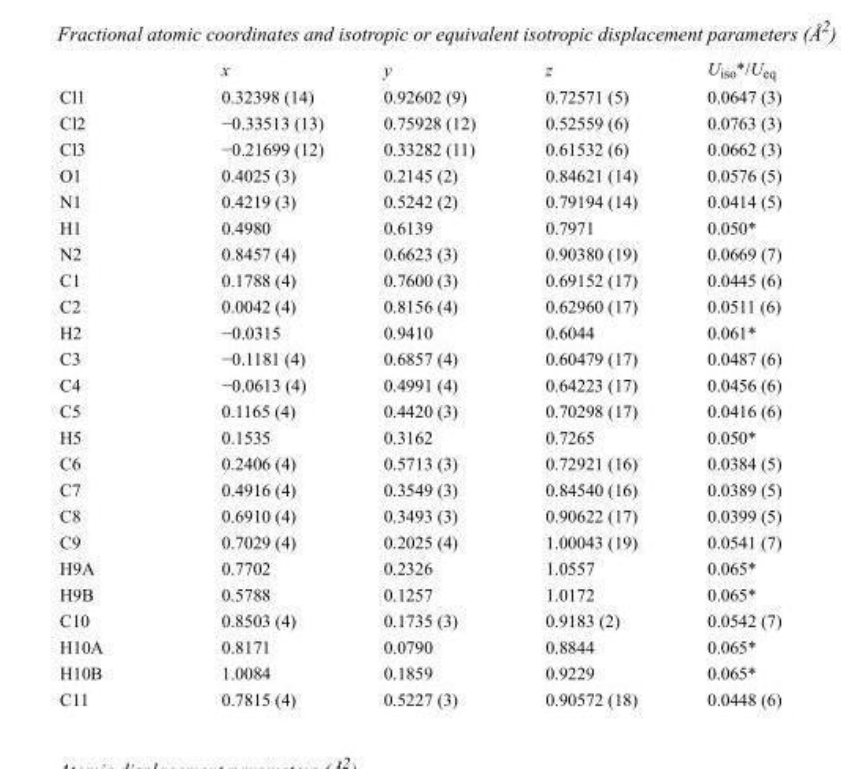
<table><thead><tr><td></td><td>x</td><td>y</td><td>z</td><td>U<sub>iso</sub>*/U<sub>eq</sub></td></tr></thead><tbody><tr><td>Cl1</td><td>0.32398 (14)</td><td>0.92602 (9)</td><td>0.72571 (5)</td><td>0.0647 (3)</td></tr><tr><td>Cl2</td><td>−0.33513 (13)</td><td>0.75928 (12)</td><td>0.52559 (6)</td><td>0.0763 (3)</td></tr><tr><td>Cl3</td><td>−0.21699 (12)</td><td>0.33282 (11)</td><td>0.61532 (6)</td><td>0.0662 (3)</td></tr><tr><td>O1</td><td>0.4025 (3)</td><td>0.2145 (2)</td><td>0.84621 (14)</td><td>0.0576 (5)</td></tr><tr><td>N1</td><td>0.4219 (3)</td><td>0.5242 (2)</td><td>0.79194 (14)</td><td>0.0414 (5)</td></tr><tr><td>H1</td><td>0.4980</td><td>0.6139</td><td>0.7971</td><td>0.050*</td></tr><tr><td>N2</td><td>0.8457 (4)</td><td>0.6623 (3)</td><td>0.90380 (19)</td><td>0.0669 (7)</td></tr><tr><td>C1</td><td>0.1788 (4)</td><td>0.7600 (3)</td><td>0.69152 (17)</td><td>0.0445 (6)</td></tr><tr><td>C2</td><td>0.0042 (4)</td><td>0.8156 (4)</td><td>0.62960 (17)</td><td>0.0511 (6)</td></tr><tr><td>H2</td><td>−0.0315</td><td>0.9410</td><td>0.6044</td><td>0.061*</td></tr><tr><td>C3</td><td>−0.1181 (4)</td><td>0.6857 (4)</td><td>0.60479 (17)</td><td>0.0487 (6)</td></tr><tr><td>C4</td><td>−0.0613 (4)</td><td>0.4991 (4)</td><td>0.64223 (17)</td><td>0.0456 (6)</td></tr><tr><td>C5</td><td>0.1165 (4)</td><td>0.4420 (3)</td><td>0.70298 (17)</td><td>0.0416 (6)</td></tr><tr><td>H5</td><td>0.1535</td><td>0.3162</td><td>0.7265</td><td>0.050*</td></tr><tr><td>C6</td><td>0.2406 (4)</td><td>0.5713 (3)</td><td>0.72921 (16)</td><td>0.0384 (5)</td></tr><tr><td>C7</td><td>0.4916 (4)</td><td>0.3549 (3)</td><td>0.84540 (16)</td><td>0.0389 (5)</td></tr><tr><td>C8</td><td>0.6910 (4)</td><td>0.3493 (3)</td><td>0.90622 (17)</td><td>0.0399 (5)</td></tr><tr><td>C9</td><td>0.7029 (4)</td><td>0.2025 (4)</td><td>1.00043 (19)</td><td>0.0541 (7)</td></tr><tr><td>H9A</td><td>0.7702</td><td>0.2326</td><td>1.0557</td><td>0.065*</td></tr><tr><td>H9B</td><td>0.5788</td><td>0.1257</td><td>1.0172</td><td>0.065*</td></tr><tr><td>C10</td><td>0.8503 (4)</td><td>0.1735 (3)</td><td>0.9183 (2)</td><td>0.0542 (7)</td></tr><tr><td>H10A</td><td>0.8171</td><td>0.0790</td><td>0.8844</td><td>0.065*</td></tr><tr><td>H10B</td><td>1.0084</td><td>0.1859</td><td>0.9229</td><td>0.065*</td></tr><tr><td>C11</td><td>0.7815 (4)</td><td>0.5227 (3)</td><td>0.90572 (18)</td><td>0.0448 (6)</td></tr></tbody></table>